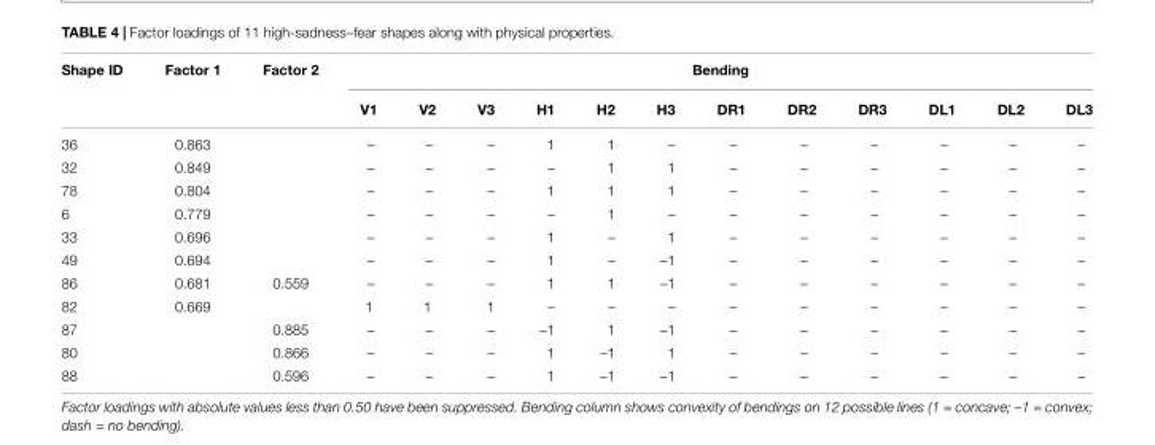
<table><thead><tr><td rowspan="2">Shape ID</td><td rowspan="2">Factor 1</td><td rowspan="2">Factor 2</td><td colspan="12">Bending</td></tr><tr><td>V1</td><td>V2</td><td>V3</td><td>H1</td><td>H2</td><td>H3</td><td>DR1</td><td>DR2</td><td>DR3</td><td>DL1</td><td>DL2</td><td>DL3</td></tr></thead><tbody><tr><td>36</td><td>0.863</td><td></td><td>–</td><td>–</td><td>–</td><td>1</td><td>1</td><td>–</td><td>–</td><td>–</td><td>–</td><td>–</td><td>–</td><td>–</td></tr><tr><td>32</td><td>0.849</td><td></td><td>–</td><td>–</td><td>–</td><td>–</td><td>1</td><td>1</td><td>–</td><td>–</td><td>–</td><td>–</td><td>–</td><td>–</td></tr><tr><td>78</td><td>0.804</td><td></td><td>–</td><td>–</td><td>–</td><td>1</td><td>1</td><td>1</td><td>–</td><td>–</td><td>–</td><td>–</td><td>–</td><td>–</td></tr><tr><td>6</td><td>0.779</td><td></td><td>–</td><td>–</td><td>–</td><td>–</td><td>1</td><td>–</td><td>–</td><td>–</td><td>–</td><td>–</td><td>–</td><td>–</td></tr><tr><td>33</td><td>0.696</td><td></td><td>–</td><td>–</td><td>–</td><td>1</td><td>–</td><td>1</td><td>–</td><td>–</td><td>–</td><td>–</td><td>–</td><td>–</td></tr><tr><td>49</td><td>0.694</td><td></td><td>–</td><td>–</td><td>–</td><td>1</td><td>–</td><td>–1</td><td>–</td><td>–</td><td>–</td><td>–</td><td>–</td><td>–</td></tr><tr><td>86</td><td>0.681</td><td>0.559</td><td>–</td><td>–</td><td>–</td><td>1</td><td>1</td><td>–1</td><td>–</td><td>–</td><td>–</td><td>–</td><td>–</td><td>–</td></tr><tr><td>82</td><td>0.669</td><td></td><td>1</td><td>1</td><td>1</td><td>–</td><td>–</td><td>–</td><td>–</td><td>–</td><td>–</td><td>–</td><td>–</td><td>–</td></tr><tr><td>87</td><td></td><td>0.885</td><td>–</td><td>–</td><td>–</td><td>–1</td><td>1</td><td>–1</td><td>–</td><td>–</td><td>–</td><td>–</td><td>–</td><td>–</td></tr><tr><td>80</td><td></td><td>0.866</td><td>–</td><td>–</td><td>–</td><td>1</td><td>–1</td><td>1</td><td>–</td><td>–</td><td>–</td><td>–</td><td>–</td><td>–</td></tr><tr><td>88</td><td></td><td>0.596</td><td>–</td><td>–</td><td>–</td><td>1</td><td>–1</td><td>–1</td><td>–</td><td>–</td><td>–</td><td>–</td><td>–</td><td>–</td></tr></tbody></table>